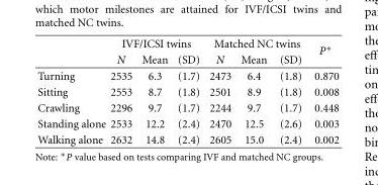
<table><thead><tr><td rowspan="2"></td><td colspan="3">IVF/ICSI twins</td><td colspan="3">Matched NC twins</td><td rowspan="2">P∗</td></tr><tr><td>N</td><td>Mean</td><td>(SD)</td><td>N</td><td>Mean</td><td>(SD)</td></tr></thead><tbody><tr><td>Turning</td><td>2535</td><td>6.3</td><td>(1.7)</td><td>2473</td><td>6.4</td><td>(1.8)</td><td>0.870</td></tr><tr><td>Sitting</td><td>2553</td><td>8.7</td><td>(1.8)</td><td>2501</td><td>8.9</td><td>(1.8)</td><td>0.008</td></tr><tr><td>Crawling</td><td>2296</td><td>9.7</td><td>(1.7)</td><td>2244</td><td>9.7</td><td>(1.7)</td><td>0.448</td></tr><tr><td>Standing alone</td><td>2533</td><td>12.2</td><td>(2.4)</td><td>2470</td><td>12.5</td><td>(2.6)</td><td>0.003</td></tr><tr><td>Walking alone</td><td>2632</td><td>14.8</td><td>(2.4)</td><td>2605</td><td>15.0</td><td>(2.4)</td><td>0.002</td></tr></tbody></table>